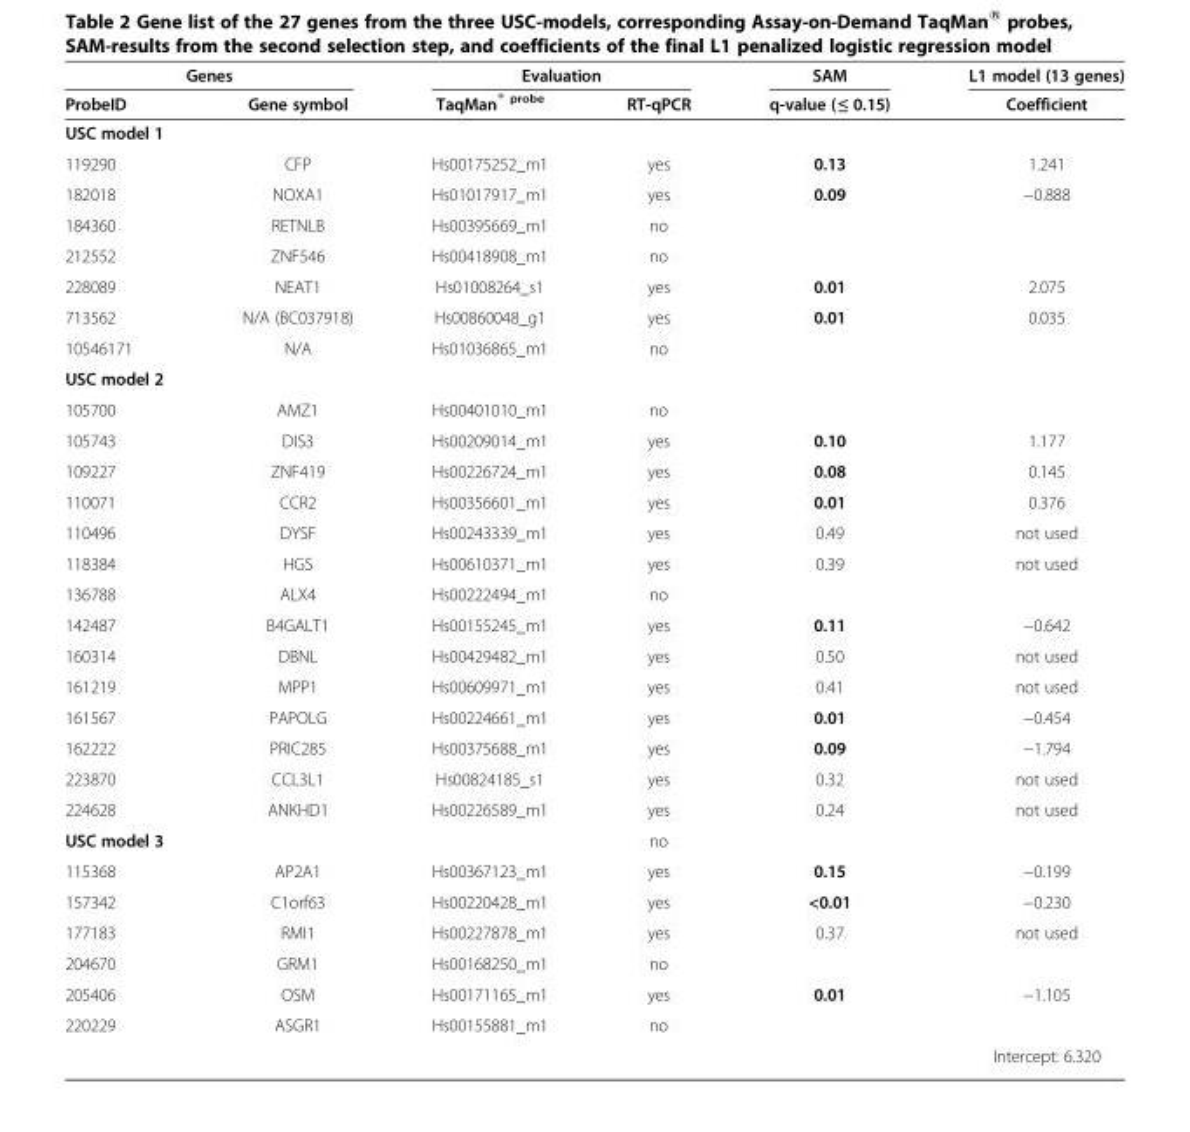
<table><thead><tr><td colspan="2">Genes</td><td colspan="2">Evaluation</td><td rowspan="2">SAM q-value (≤ 0.15)</td><td rowspan="2">L1 model (13 genes) Coefficient</td></tr><tr><td>ProbeID</td><td>Gene symbol</td><td>TaqMan <sup>®</sup> probe</td><td>RT-qPCR</td></tr></thead><tbody><tr><td colspan="6">USC model 1</td></tr><tr><td>119290</td><td>CFP</td><td>Hs00175252_m1</td><td>yes</td><td>0.13</td><td>1.241</td></tr><tr><td>182018</td><td>NOXA1</td><td>Hs01017917_m1</td><td>yes</td><td>0.09</td><td>−0.888</td></tr><tr><td>184360</td><td>RETNLB</td><td>Hs00395669_m1</td><td>no</td><td></td><td></td></tr><tr><td>212552</td><td>ZNF546</td><td>Hs00418908_m1</td><td>no</td><td></td><td></td></tr><tr><td>228089</td><td>NEAT1</td><td>Hs01008264_s1</td><td>yes</td><td>0.01</td><td>2.075</td></tr><tr><td>713562</td><td>N/A (BC037918)</td><td>Hs00860048_g1</td><td>yes</td><td>0.01</td><td>0.035</td></tr><tr><td>10546171</td><td>N/A</td><td>Hs01036865_m1</td><td>no</td><td></td><td></td></tr><tr><td colspan="6">USC model 2</td></tr><tr><td>105700</td><td>AMZ1</td><td>Hs00401010_m1</td><td>no</td><td></td><td></td></tr><tr><td>105743</td><td>DIS3</td><td>Hs00209014_m1</td><td>yes</td><td>0.10</td><td>1.177</td></tr><tr><td>109227</td><td>ZNF419</td><td>Hs00226724_m1</td><td>yes</td><td>0.08</td><td>0.145</td></tr><tr><td>110071</td><td>CCR2</td><td>Hs00356601_m1</td><td>yes</td><td>0.01</td><td>0.376</td></tr><tr><td>110496</td><td>DYSF</td><td>Hs00243339_m1</td><td>yes</td><td>0.49</td><td>not used</td></tr><tr><td>118384</td><td>HGS</td><td>Hs00610371_m1</td><td>yes</td><td>0.39</td><td>not used</td></tr><tr><td>136788</td><td>ALX4</td><td>Hs00222494_m1</td><td>no</td><td></td><td></td></tr><tr><td>142487</td><td>B4GALT1</td><td>Hs00155245_m1</td><td>yes</td><td>0.11</td><td>−0.642</td></tr><tr><td>160314</td><td>DBNL</td><td>Hs00429482_m1</td><td>yes</td><td>0.50</td><td>not used</td></tr><tr><td>161219</td><td>MPP1</td><td>Hs00609971_m1</td><td>yes</td><td>0.41</td><td>not used</td></tr><tr><td>161567</td><td>PAPOLG</td><td>Hs00224661_m1</td><td>yes</td><td>0.01</td><td>−0.454</td></tr><tr><td>162222</td><td>PRIC285</td><td>Hs00375688_m1</td><td>yes</td><td>0.09</td><td>−1.794</td></tr><tr><td>223870</td><td>CCL3L1</td><td>Hs00824185_s1</td><td>yes</td><td>0.32</td><td>not used</td></tr><tr><td>224628</td><td>ANKHD1</td><td>Hs00226589_m1</td><td>yes</td><td>0.24</td><td>not used</td></tr><tr><td>USC model 3</td><td></td><td></td><td>no</td><td></td><td></td></tr><tr><td>115368</td><td>AP2A1</td><td>Hs00367123_m1</td><td>yes</td><td>0.15</td><td>−0.199</td></tr><tr><td>157342</td><td>C1orf63</td><td>Hs00220428_m1</td><td>yes</td><td>&lt;0.01</td><td>−0.230</td></tr><tr><td>177183</td><td>RMI1</td><td>Hs00227878_m1</td><td>yes</td><td>0.37</td><td>not used</td></tr><tr><td>204670</td><td>GRM1</td><td>Hs00168250_m1</td><td>no</td><td></td><td></td></tr><tr><td>205406</td><td>OSM</td><td>Hs00171165_m1</td><td>yes</td><td>0.01</td><td>−1.105</td></tr><tr><td rowspan="2">220229</td><td>ASGR1</td><td>Hs00155881_m1</td><td>no</td><td></td><td></td></tr><tr><td></td><td></td><td></td><td></td><td>Intercept: 6.320</td></tr></tbody></table>